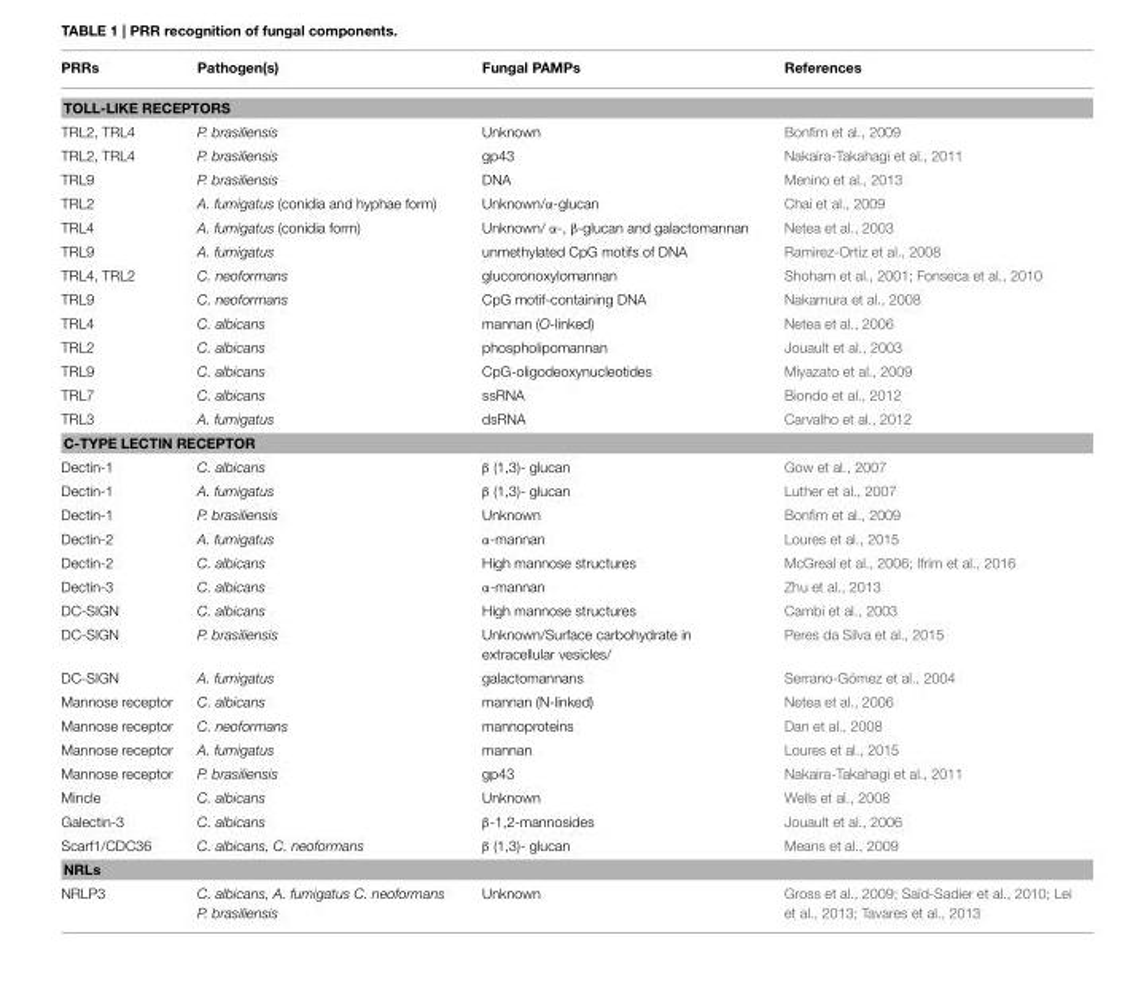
<table><thead><tr><td>PRRs</td><td>Pathogen(s)</td><td>Fungal PAMPs</td><td>References</td></tr></thead><tbody><tr><td colspan="4">TOLL-LIKE RECEPTORS</td></tr><tr><td>TRL2, TRL4</td><td>P. brasiliensis</td><td>Unknown</td><td>Bonfim et al., 2009</td></tr><tr><td>TRL2, TRL4</td><td>P. brasiliensis</td><td>gp43</td><td>Nakaira-Takahagi et al., 2011</td></tr><tr><td>TRL9</td><td>P. brasiliensis</td><td>DNA</td><td>Menino et al., 2013</td></tr><tr><td>TRL2</td><td>A. fumigatus (conidia and hyphae form)</td><td>Unknown/α-glucan</td><td>Chai et al., 2009</td></tr><tr><td>TRL4</td><td>A. fumigatus (conidia form)</td><td>Unknown/ α-, β-glucan and galactomannan</td><td>Netea et al., 2003</td></tr><tr><td>TRL9</td><td>A. fumigatus</td><td>unmethylated CpG motifs of DNA</td><td>Ramirez-Ortiz et al., 2008</td></tr><tr><td>TRL4, TRL2</td><td>C. neoformans</td><td>glucoronoxylomannan</td><td>Shoham et al., 2001; Fonseca et al., 2010</td></tr><tr><td>TRL9</td><td>C. neoformans</td><td>CpG motif-containing DNA</td><td>Nakamura et al., 2008</td></tr><tr><td>TRL4</td><td>C. albicans</td><td>mannan (O-linked)</td><td>Netea et al., 2006</td></tr><tr><td>TRL2</td><td>C. albicans</td><td>phospholipomannan</td><td>Jouault et al., 2003</td></tr><tr><td>TRL9</td><td>C. albicans</td><td>CpG-oligodeoxynucleotides</td><td>Miyazato et al., 2009</td></tr><tr><td>TRL7</td><td>C. albicans</td><td>ssRNA</td><td>Biondo et al., 2012</td></tr><tr><td>TRL3</td><td>A. fumigatus</td><td>dsRNA</td><td>Carvalho et al., 2012</td></tr><tr><td colspan="4">C-TYPE LECTIN RECEPTOR</td></tr><tr><td>Dectin-1</td><td>C. albicans</td><td>β (1,3)- glucan</td><td>Gow et al., 2007</td></tr><tr><td>Dectin-1</td><td>A. fumigatus</td><td>β (1,3)- glucan</td><td>Luther et al., 2007</td></tr><tr><td>Dectin-1</td><td>P. brasiliensis</td><td>Unknown</td><td>Bonfim et al., 2009</td></tr><tr><td>Dectin-2</td><td>A. fumigatus</td><td>α-mannan</td><td>Loures et al., 2015</td></tr><tr><td>Dectin-2</td><td>C. albicans</td><td>High mannose structures</td><td>McGreal et al., 2006; Ifrim et al., 2016</td></tr><tr><td>Dectin-3</td><td>C. albicans</td><td>α-mannan</td><td>Zhu et al., 2013</td></tr><tr><td>DC-SIGN</td><td>C. albicans</td><td>High mannose structures</td><td>Cambi et al., 2003</td></tr><tr><td>DC-SIGN</td><td>P. brasiliensis</td><td>Unknown/Surface carbohydrate in extracellular vesicles/</td><td>Peres da Silva et al., 2015</td></tr><tr><td>DC-SIGN</td><td>A. fumigatus</td><td>galactomannans</td><td>Serrano-Gómez et al., 2004</td></tr><tr><td>Mannose receptor</td><td>C. albicans</td><td>mannan (N-linked)</td><td>Netea et al., 2006</td></tr><tr><td>Mannose receptor</td><td>C. neoformans</td><td>mannoproteins</td><td>Dan et al., 2008</td></tr><tr><td>Mannose receptor</td><td>A. fumigatus</td><td>mannan</td><td>Loures et al., 2015</td></tr><tr><td>Mannose receptor</td><td>P. brasiliensis</td><td>gp43</td><td>Nakaira-Takahagi et al., 2011</td></tr><tr><td>Mincle</td><td>C. albicans</td><td>Unknown</td><td>Wells et al., 2008</td></tr><tr><td>Galectin-3</td><td>C. albicans</td><td>β-1,2-mannosides</td><td>Jouault et al., 2006</td></tr><tr><td>Scarf1/CDC36</td><td>C. albicans, C. neoformans</td><td>β (1,3)- glucan</td><td>Means et al., 2009</td></tr><tr><td colspan="4">NRLs</td></tr><tr><td>NRLP3</td><td>C. albicans, A. fumigatus C. neoformans P. brasiliensis</td><td>Unknown</td><td>Gross et al., 2009; Saïd-Sadier et al., 2010; Lei et al., 2013; Tavares et al., 2013</td></tr></tbody></table>